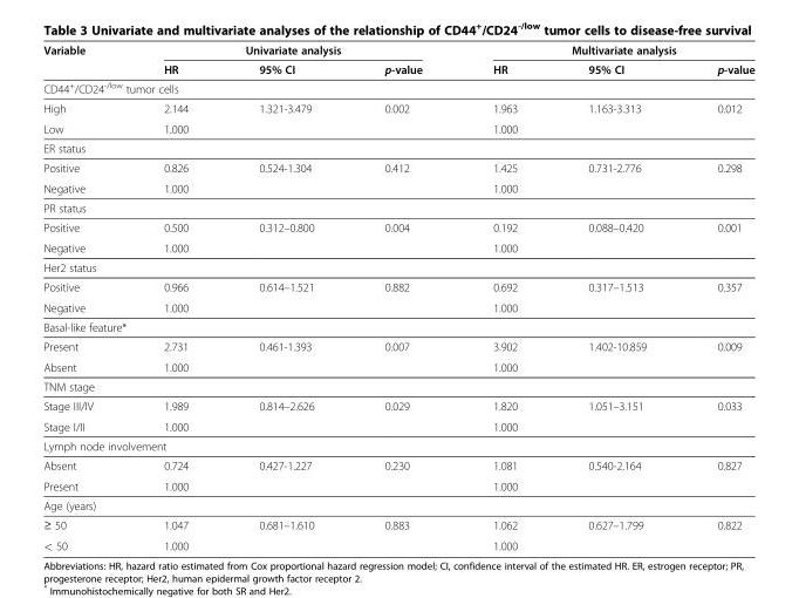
<table><thead><tr><td rowspan="2">Variable</td><td colspan="3">Univariate analysis</td><td colspan="3">Multivariate analysis</td></tr><tr><td>HR</td><td>95% CI</td><td>p-value</td><td>HR</td><td>95% CI</td><td>p-value</td></tr></thead><tbody><tr><td colspan="7">CD44<sup>+</sup>/CD24<sup>-/low</sup> tumor cells</td></tr><tr><td>High</td><td>2.144</td><td>1.321-3.479</td><td>0.002</td><td>1.963</td><td>1.163-3.313</td><td>0.012</td></tr><tr><td>Low</td><td>1.000</td><td></td><td></td><td>1.000</td><td></td><td></td></tr><tr><td colspan="7">ER status</td></tr><tr><td>Positive</td><td>0.826</td><td>0.524-1.304</td><td>0.412</td><td>1.425</td><td>0.731-2.776</td><td>0.298</td></tr><tr><td>Negative</td><td>1.000</td><td></td><td></td><td>1.000</td><td></td><td></td></tr><tr><td colspan="7">PR status</td></tr><tr><td>Positive</td><td>0.500</td><td>0.312–0.800</td><td>0.004</td><td>0.192</td><td>0.088–0.420</td><td>0.001</td></tr><tr><td>Negative</td><td>1.000</td><td></td><td></td><td>1.000</td><td></td><td></td></tr><tr><td colspan="7">Her2 status</td></tr><tr><td>Positive</td><td>0.966</td><td>0.614–1.521</td><td>0.882</td><td>0.692</td><td>0.317–1.513</td><td>0.357</td></tr><tr><td>Negative</td><td>1.000</td><td></td><td></td><td>1.000</td><td></td><td></td></tr><tr><td colspan="7">Basal-like feature*</td></tr><tr><td>Present</td><td>2.731</td><td>0.461-1.393</td><td>0.007</td><td>3.902</td><td>1.402-10.859</td><td>0.009</td></tr><tr><td>Absent</td><td>1.000</td><td></td><td></td><td>1.000</td><td></td><td></td></tr><tr><td colspan="7">TNM stage</td></tr><tr><td>Stage III/IV</td><td>1.989</td><td>0.814–2.626</td><td>0.029</td><td>1.820</td><td>1.051–3.151</td><td>0.033</td></tr><tr><td>Stage I/II</td><td>1.000</td><td></td><td></td><td>1.000</td><td></td><td></td></tr><tr><td colspan="7">Lymph node involvement</td></tr><tr><td>Absent</td><td>0.724</td><td>0.427-1.227</td><td>0.230</td><td>1.081</td><td>0.540-2.164</td><td>0.827</td></tr><tr><td>Present</td><td>1.000</td><td></td><td></td><td>1.000</td><td></td><td></td></tr><tr><td colspan="7">Age (years)</td></tr><tr><td>≥ 50</td><td>1.047</td><td>0.681–1.610</td><td>0.883</td><td>1.062</td><td>0.627–1.799</td><td>0.822</td></tr><tr><td>&lt; 50</td><td>1.000</td><td></td><td></td><td>1.000</td><td></td><td></td></tr></tbody></table>